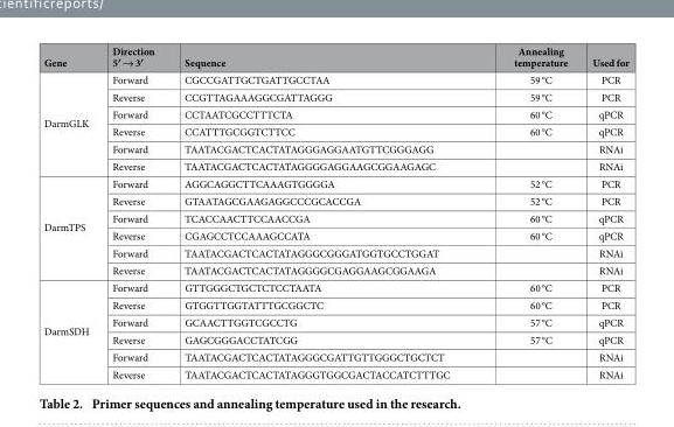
<table><thead><tr><td>Gene</td><td>Direction 5′ → 3′</td><td>Sequence</td><td>Annealing temperature</td><td>Used for</td></tr></thead><tbody><tr><td rowspan="6">DarmGLK</td><td>Forward</td><td>CGCCGATTGCTGATTGCCTAA</td><td>59 °C</td><td>PCR</td></tr><tr><td>Reverse</td><td>CCGTTAGAAAGGCGATTAGGG</td><td>59 °C</td><td>PCR</td></tr><tr><td>Forward</td><td>CCTAATCGCCTTTCTA</td><td>60 °C</td><td>qPCR</td></tr><tr><td>Reverse</td><td>CCATTTGCGGTCTTCC</td><td>60 °C</td><td>qPCR</td></tr><tr><td>Forward</td><td>TAATACGACTCACTATAGGGAGGAATGTTCGGGAGG</td><td></td><td>RNAi</td></tr><tr><td>Reverse</td><td>TAATACGACTCACTATAGGGGAGGAAGCGGAAGAGC</td><td></td><td>RNAi</td></tr><tr><td rowspan="6">DarmTPS</td><td>Forward</td><td>AGGCAGGCTTCAAAGTGGGGA</td><td>52 °C</td><td>PCR</td></tr><tr><td>Reverse</td><td>GTAATAGCGAAGAGGCCCGCACCGA</td><td>52 °C</td><td>PCR</td></tr><tr><td>Forward</td><td>TCACCAACTTCCAACCGA</td><td>60 °C</td><td>qPCR</td></tr><tr><td>Reverse</td><td>CGAGCCTCCAAAGCCATA</td><td>60 °C</td><td>qPCR</td></tr><tr><td>Forward</td><td>TAATACGACTCACTATAGGGCGGGATGGTGCCTGGAT</td><td></td><td>RNAi</td></tr><tr><td>Reverse</td><td>TAATACGACTCACTATAGGGGCGAGGAAGCGGAAGA</td><td></td><td>RNAi</td></tr><tr><td rowspan="6">DarmSDH</td><td>Forward</td><td>GTTGGGCTGCTCTCCTAATA</td><td>60 °C</td><td>PCR</td></tr><tr><td>Reverse</td><td>GTGGTTGGTATTTGCGGCTC</td><td>60 °C</td><td>PCR</td></tr><tr><td>Forward</td><td>GCAACTTGGTCGCCTG</td><td>57 °C</td><td>qPCR</td></tr><tr><td>Reverse</td><td>GAGCGGGACCTATCGG</td><td>57 °C</td><td>qPCR</td></tr><tr><td>Forward</td><td>TAATACGACTCACTATAGGGCGATTGTTGGGCTGCTCT</td><td></td><td>RNAi</td></tr><tr><td>Reverse</td><td>TAATACGACTCACTATAGGGTGGCGACTACCATCTTTGC</td><td></td><td>RNAi</td></tr></tbody></table>